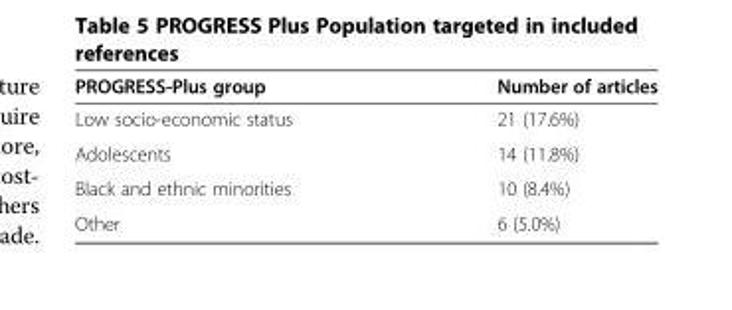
<table><thead><tr><td>PROGRESS-Plus group</td><td>Number of articles</td></tr></thead><tbody><tr><td>Low socio-economic status</td><td>21 (17.6%)</td></tr><tr><td>Adolescents</td><td>14 (11.8%)</td></tr><tr><td>Black and ethnic minorities</td><td>10 (8.4%)</td></tr><tr><td>Other</td><td>6 (5.0%)</td></tr></tbody></table>